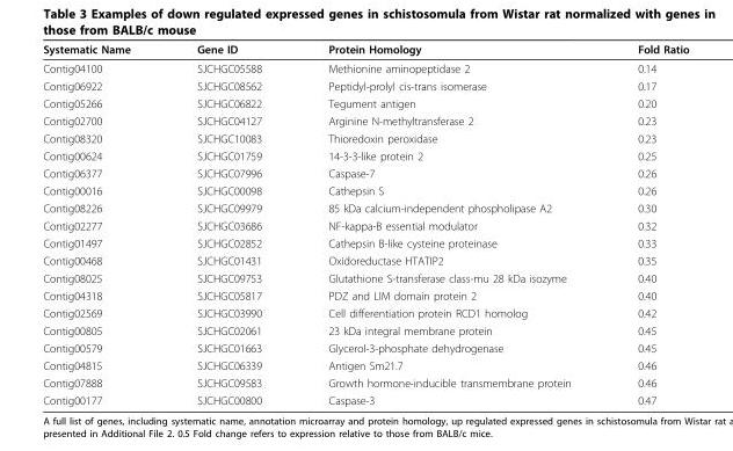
<table><thead><tr><td>Systematic Name</td><td>Gene ID</td><td>Protein Homology</td><td>Fold Ratio</td></tr></thead><tbody><tr><td>Contig04100</td><td>SJCHGC05588</td><td>Methionine aminopeptidase 2</td><td>0.14</td></tr><tr><td>Contig06922</td><td>SJCHGC08562</td><td>Peptidyl-prolyl cis-trans isomerase</td><td>0.17</td></tr><tr><td>Contig05266</td><td>SJCHGC06822</td><td>Tegument antigen</td><td>0.20</td></tr><tr><td>Contig02700</td><td>SJCHGC04127</td><td>Arginine N-methyltransferase 2</td><td>0.23</td></tr><tr><td>Contig08320</td><td>SJCHGC10083</td><td>Thioredoxin peroxidase</td><td>0.23</td></tr><tr><td>Contig00624</td><td>SJCHGC01759</td><td>14-3-3-like protein 2</td><td>0.25</td></tr><tr><td>Contig06377</td><td>SJCHGC07996</td><td>Caspase-7</td><td>0.26</td></tr><tr><td>Contig00016</td><td>SJCHGC00098</td><td>Cathepsin S</td><td>0.26</td></tr><tr><td>Contig08226</td><td>SJCHGC09979</td><td>85 kDa calcium-independent phospholipase A2</td><td>0.30</td></tr><tr><td>Contig02277</td><td>SJCHGC03686</td><td>NF-kappa-B essential modulator</td><td>0.32</td></tr><tr><td>Contig01497</td><td>SJCHGC02852</td><td>Cathepsin B-like cysteine proteinase</td><td>0.33</td></tr><tr><td>Contig00468</td><td>SJCHGC01431</td><td>Oxidoreductase HTATIP2</td><td>0.35</td></tr><tr><td>Contig08025</td><td>SJCHGC09753</td><td>Glutathione S-transferase class-mu 28 kDa isozyme</td><td>0.40</td></tr><tr><td>Contig04318</td><td>SJCHGC05817</td><td>PDZ and LIM domain protein 2</td><td>0.40</td></tr><tr><td>Contig02569</td><td>SJCHGC03990</td><td>Cell differentiation protein RCD1 homolog</td><td>0.42</td></tr><tr><td>Contig00805</td><td>SJCHGC02061</td><td>23 kDa integral membrane protein</td><td>0.45</td></tr><tr><td>Contig00579</td><td>SJCHGC01663</td><td>Glycerol-3-phosphate dehydrogenase</td><td>0.45</td></tr><tr><td>Contig04815</td><td>SJCHGC06339</td><td>Antigen Sm21.7</td><td>0.46</td></tr><tr><td>Contig07888</td><td>SJCHGC09583</td><td>Growth hormone-inducible transmembrane protein</td><td>0.46</td></tr><tr><td>Contig00177</td><td>SJCHGC00800</td><td>Caspase-3</td><td>0.47</td></tr></tbody></table>